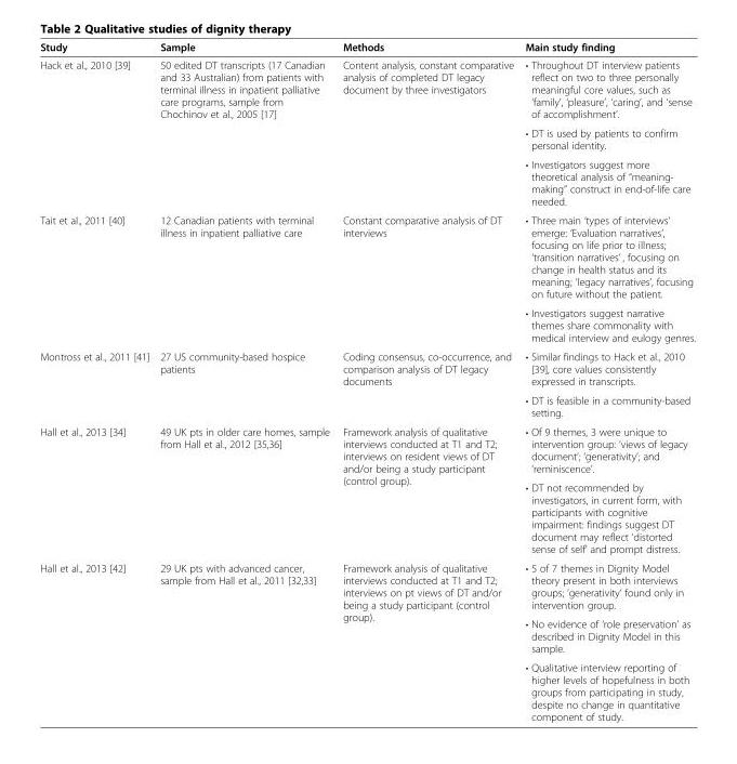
<table><thead><tr><td>Study</td><td>Sample</td><td>Methods</td><td>Main study finding</td></tr></thead><tbody><tr><td rowspan="3">Hack et al., 2010 [39]</td><td rowspan="3">50 edited DT transcripts (17 Canadian and 33 Australian) from patients with terminal illness in inpatient palliative care programs, sample from Chochinov et al., 2005 [17]</td><td rowspan="3">Content analysis, constant comparative analysis of completed DT legacy document by three investigators</td><td>• Throughout DT interview patients reflect on two to three personally meaningful core values, such as ‘family’, ‘pleasure’, ‘caring’, and ‘sense of accomplishment’.</td></tr><tr><td>• DT is used by patients to confirm personal identity.</td></tr><tr><td>• Investigators suggest more theoretical analysis of “meaning- making” construct in end-of-life care needed.</td></tr><tr><td rowspan="2">Tait et al., 2011 [40]</td><td rowspan="2">12 Canadian patients with terminal illness in inpatient palliative care</td><td rowspan="2">Constant comparative analysis of DT interviews</td><td>• Three main ‘types of interviews’ emerge: ‘Evaluation narratives’, focusing on life prior to illness; ‘transition narratives’ , focusing on change in health status and its meaning; ‘legacy narratives’, focusing on future without the patient.</td></tr><tr><td>• Investigators suggest narrative themes share commonality with medical interview and eulogy genres.</td></tr><tr><td rowspan="2">Montross et al., 2011 [41]</td><td rowspan="2">27 US community-based hospice patients</td><td rowspan="2">Coding consensus, co-occurrence, and comparison analysis of DT legacy documents</td><td>• Similar findings to Hack et al., 2010 [39], core values consistently expressed in transcripts.</td></tr><tr><td>• DT is feasible in a community-based setting.</td></tr><tr><td rowspan="2">Hall et al., 2013 [34]</td><td rowspan="2">49 UK pts in older care homes, sample from Hall et al., 2012 [35,36]</td><td rowspan="2">Framework analysis of qualitative interviews conducted at T1 and T2; interviews on resident views of DT and/or being a study participant (control group).</td><td>• Of 9 themes, 3 were unique to intervention group: ‘views of legacy document’; ‘generativity’; and ‘reminiscence’.</td></tr><tr><td>• DT not recommended by investigators, in current form, with participants with cognitive impairment: findings suggest DT document may reflect ‘distorted sense of self’ and prompt distress.</td></tr><tr><td rowspan="3">Hall et al., 2013 [42]</td><td rowspan="3">29 UK pts with advanced cancer, sample from Hall et al., 2011 [32,33]</td><td rowspan="3">Framework analysis of qualitative interviews conducted at T1 and T2; interviews on pt views of DT and/or being a study participant (control group).</td><td>• 5 of 7 themes in Dignity Model theory present in both interviews groups; ‘generativity’ found only in intervention group.</td></tr><tr><td>• No evidence of ‘role preservation’ as described in Dignity Model in this sample.</td></tr><tr><td>• Qualitative interview reporting of higher levels of hopefulness in both groups from participating in study, despite no change in quantitative component of study.</td></tr></tbody></table>